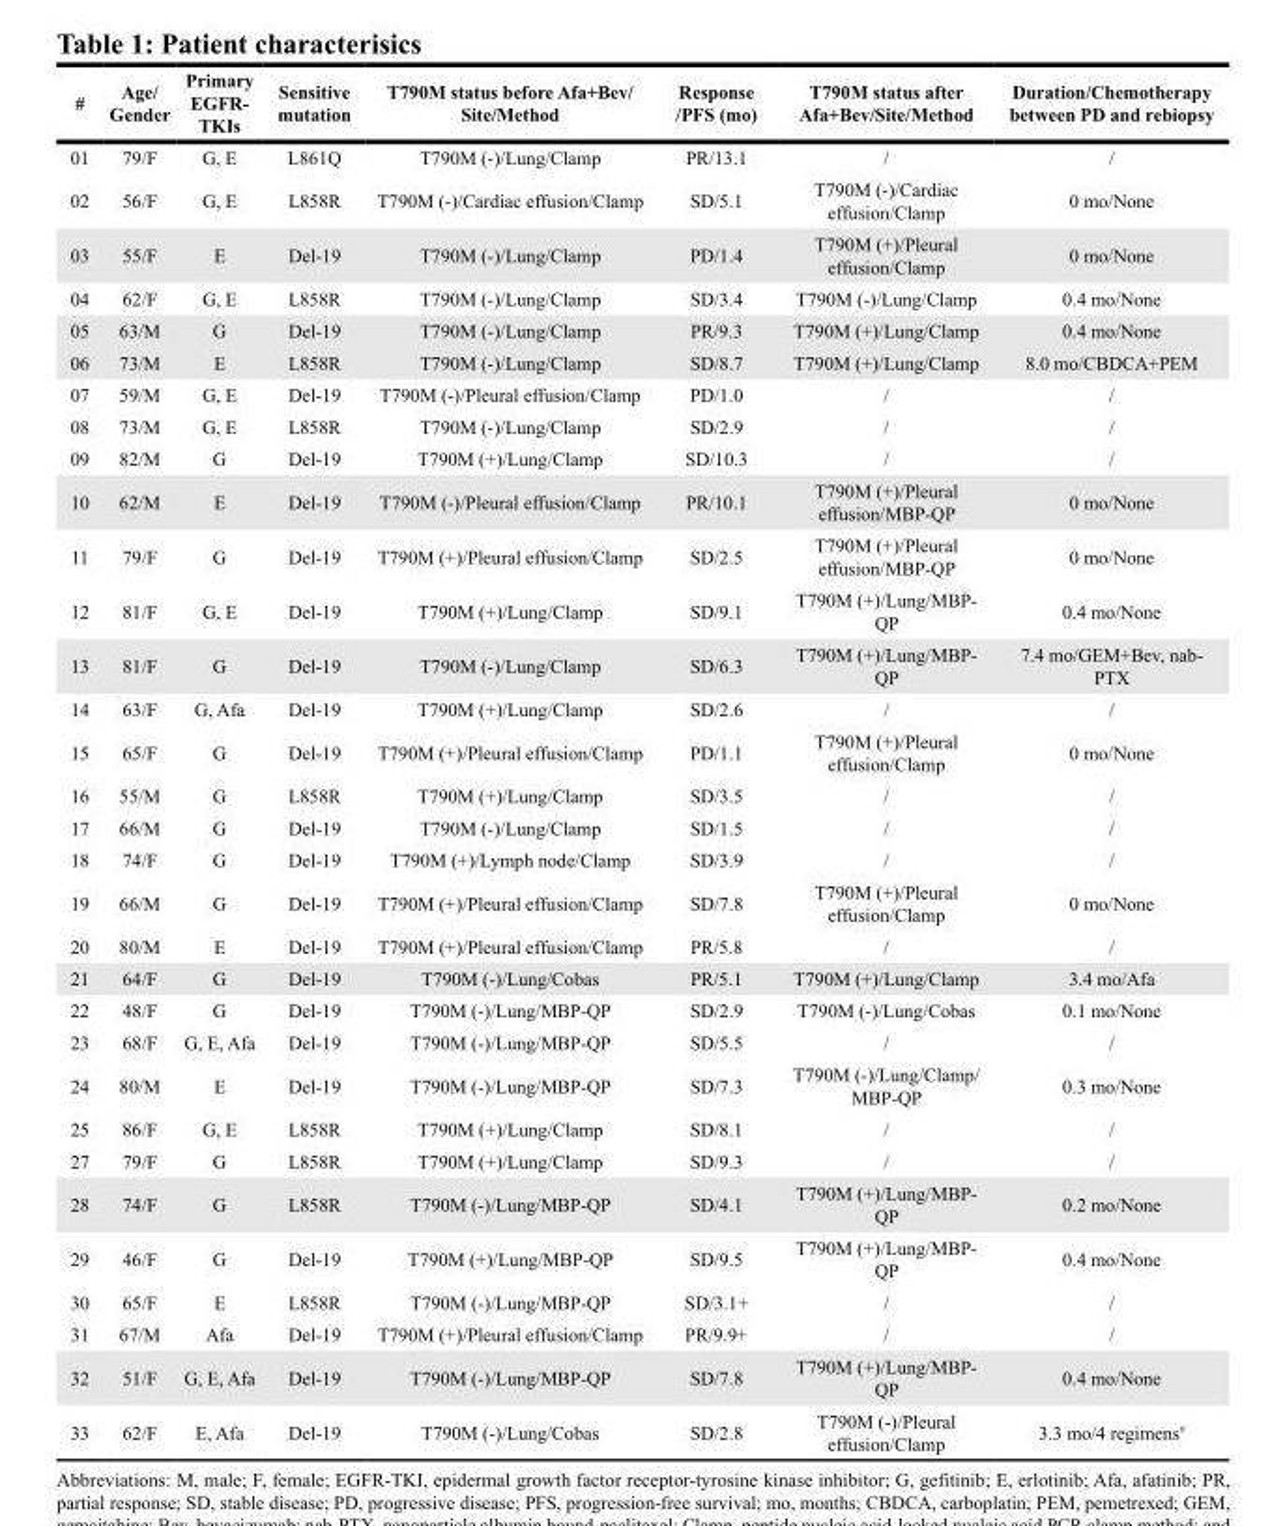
<table><thead><tr><td>#</td><td>Age/ Gender</td><td>Primary EGFR- TKIs</td><td>Sensitive mutation</td><td>T790M status before Afa+Bev/ Site/Method</td><td>Response /PFS (mo)</td><td>T790M status after Afa+Bev/Site/Method</td><td>Duration/Chemotherapy between PD and rebiopsy</td></tr></thead><tbody><tr><td>01</td><td>79/F</td><td>G, E</td><td>L861Q</td><td>T790M (-)/Lung/Clamp</td><td>PR/13.1</td><td>/</td><td>/</td></tr><tr><td>02</td><td>56/F</td><td>G, E</td><td>L858R</td><td>T790M (-)/Cardiac effusion/Clamp</td><td>SD/5.1</td><td>T790M (-)/Cardiac effusion/Clamp</td><td>0 mo/None</td></tr><tr><td>03</td><td>55/F</td><td>E</td><td>Del-19</td><td>T790M (-)/Lung/Clamp</td><td>PD/1.4</td><td>T790M (+)/Pleural effusion/Clamp</td><td>0 mo/None</td></tr><tr><td>04</td><td>62/F</td><td>G, E</td><td>L858R</td><td>T790M (-)/Lung/Clamp</td><td>SD/3.4</td><td>T790M (-)/Lung/Clamp</td><td>0.4 mo/None</td></tr><tr><td>05</td><td>63/M</td><td>G</td><td>Del-19</td><td>T790M (-)/Lung/Clamp</td><td>PR/9.3</td><td>T790M (+)/Lung/Clamp</td><td>0.4 mo/None</td></tr><tr><td>06</td><td>73/M</td><td>E</td><td>L858R</td><td>T790M (-)/Lung/Clamp</td><td>SD/8.7</td><td>T790M (+)/Lung/Clamp</td><td>8.0 mo/CBDCA+PEM</td></tr><tr><td>07</td><td>59/M</td><td>G, E</td><td>Del-19</td><td>T790M (-)/Pleural effusion/Clamp</td><td>PD/1.0</td><td>/</td><td>/</td></tr><tr><td>08</td><td>73/M</td><td>G, E</td><td>L858R</td><td>T790M (-)/Lung/Clamp</td><td>SD/2.9</td><td>/</td><td>/</td></tr><tr><td>09</td><td>82/M</td><td>G</td><td>Del-19</td><td>T790M (+)/Lung/Clamp</td><td>SD/10.3</td><td>/</td><td>/</td></tr><tr><td>10</td><td>62/M</td><td>E</td><td>Del-19</td><td>T790M (-)/Pleural effusion/Clamp</td><td>PR/10.1</td><td>T790M (+)/Pleural effusion/MBP-QP</td><td>0 mo/None</td></tr><tr><td>11</td><td>79/F</td><td>G</td><td>Del-19</td><td>T790M (+)/Pleural effusion/Clamp</td><td>SD/2.5</td><td>T790M (+)/Pleural effusion/MBP-QP</td><td>0 mo/None</td></tr><tr><td>12</td><td>81/F</td><td>G, E</td><td>Del-19</td><td>T790M (+)/Lung/Clamp</td><td>SD/9.1</td><td>T790M (+)/Lung/MBP- QP</td><td>0.4 mo/None</td></tr><tr><td>13</td><td>81/F</td><td>G</td><td>Del-19</td><td>T790M (-)/Lung/Clamp</td><td>SD/6.3</td><td>T790M (+)/Lung/MBP- QP</td><td>7.4 mo/GEM+Bev, nab- PTX</td></tr><tr><td>14</td><td>63/F</td><td>G, Afa</td><td>Del-19</td><td>T790M (+)/Lung/Clamp</td><td>SD/2.6</td><td>/</td><td>/</td></tr><tr><td>15</td><td>65/F</td><td>G</td><td>Del-19</td><td>T790M (+)/Pleural effusion/Clamp</td><td>PD/1.1</td><td>T790M (+)/Pleural effusion/Clamp</td><td>0 mo/None</td></tr><tr><td>16</td><td>55/M</td><td>G</td><td>L858R</td><td>T790M (+)/Lung/Clamp</td><td>SD/3.5</td><td>/</td><td>/</td></tr><tr><td>17</td><td>66/M</td><td>G</td><td>Del-19</td><td>T790M (-)/Lung/Clamp</td><td>SD/1.5</td><td>/</td><td>/</td></tr><tr><td>18</td><td>74/F</td><td>G</td><td>Del-19</td><td>T790M (+)/Lymph node/Clamp</td><td>SD/3.9</td><td>/</td><td>/</td></tr><tr><td>19</td><td>66/M</td><td>G</td><td>Del-19</td><td>T790M (+)/Pleural effusion/Clamp</td><td>SD/7.8</td><td>T790M (+)/Pleural effusion/Clamp</td><td>0 mo/None</td></tr><tr><td>20</td><td>80/M</td><td>E</td><td>Del-19</td><td>T790M (+)/Pleural effusion/Clamp</td><td>PR/5.8</td><td>/</td><td>/</td></tr><tr><td>21</td><td>64/F</td><td>G</td><td>Del-19</td><td>T790M (-)/Lung/Cobas</td><td>PR/5.1</td><td>T790M (+)/Lung/Clamp</td><td>3.4 mo/Afa</td></tr><tr><td>22</td><td>48/F</td><td>G</td><td>Del-19</td><td>T790M (-)/Lung/MBP-QP</td><td>SD/2.9</td><td>T790M (-)/Lung/Cobas</td><td>0.1 mo/None</td></tr><tr><td>23</td><td>68/F</td><td>G, E, Afa</td><td>Del-19</td><td>T790M (-)/Lung/MBP-QP</td><td>SD/5.5</td><td>/</td><td>/</td></tr><tr><td>24</td><td>80/M</td><td>E</td><td>Del-19</td><td>T790M (-)/Lung/MBP-QP</td><td>SD/7.3</td><td>T790M (-)/Lung/Clamp/ MBP-QP</td><td>0.3 mo/None</td></tr><tr><td>25</td><td>86/F</td><td>G, E</td><td>L858R</td><td>T790M (+)/Lung/Clamp</td><td>SD/8.1</td><td>/</td><td>/</td></tr><tr><td>27</td><td>79/F</td><td>G</td><td>L858R</td><td>T790M (+)/Lung/Clamp</td><td>SD/9.3</td><td>/</td><td>/</td></tr><tr><td>28</td><td>74/F</td><td>G</td><td>L858R</td><td>T790M (-)/Lung/MBP-QP</td><td>SD/4.1</td><td>T790M (+)/Lung/MBP- QP</td><td>0.2 mo/None</td></tr><tr><td>29</td><td>46/F</td><td>G</td><td>Del-19</td><td>T790M (+)/Lung/MBP-QP</td><td>SD/9.5</td><td>T790M (+)/Lung/MBP- QP</td><td>0.4 mo/None</td></tr><tr><td>30</td><td>65/F</td><td>E</td><td>L858R</td><td>T790M (-)/Lung/MBP-QP</td><td>SD/3.1+</td><td>/</td><td>/</td></tr><tr><td>31</td><td>67/M</td><td>Afa</td><td>Del-19</td><td>T790M (+)/Pleural effusion/Clamp</td><td>PR/9.9+</td><td>/</td><td>/</td></tr><tr><td>32</td><td>51/F</td><td>G, E, Afa</td><td>Del-19</td><td>T790M (-)/Lung/MBP-QP</td><td>SD/7.8</td><td>T790M (+)/Lung/MBP- QP</td><td>0.4 mo/None</td></tr><tr><td>33</td><td>62/F</td><td>E, Afa</td><td>Del-19</td><td>T790M (-)/Lung/Cobas</td><td>SD/2.8</td><td>T790M (-)/Pleural effusion/Clamp</td><td>3.3 mo/4 regimens<sup>#</sup></td></tr></tbody></table>